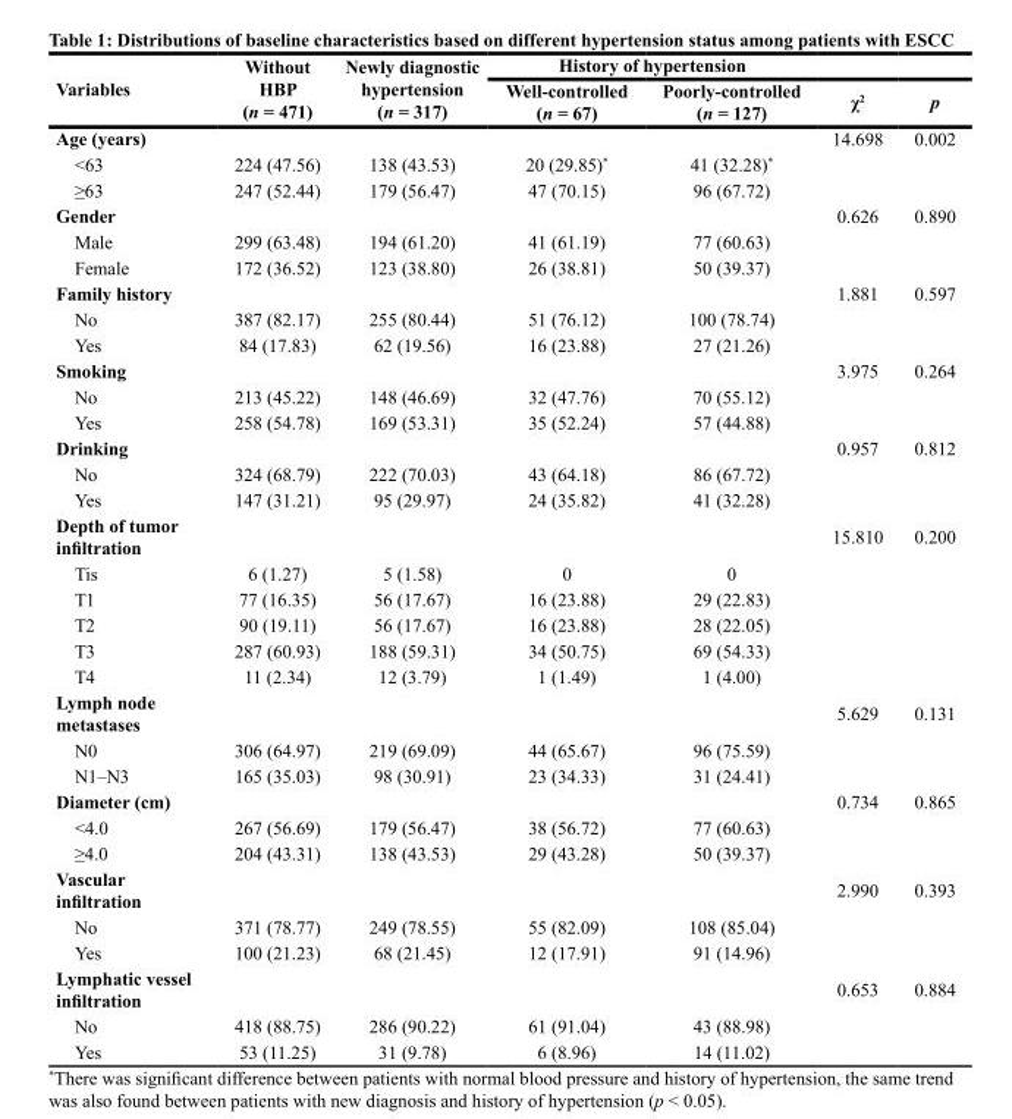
<table><thead><tr><td rowspan="2">Variables</td><td rowspan="2">Without HBP (n = 471)</td><td rowspan="2">Newly diagnostic hypertension (n = 317)</td><td colspan="2">History of hypertension</td><td rowspan="2">χ<sup>2</sup></td><td rowspan="2">p</td></tr><tr><td>Well-controlled (n = 67)</td><td>Poorly-controlled (n = 127)</td></tr></thead><tbody><tr><td>Age (years)</td><td></td><td></td><td></td><td></td><td>14.698</td><td>0.002</td></tr><tr><td>&lt;63</td><td>224 (47.56)</td><td>138 (43.53)</td><td>20 (29.85)*</td><td>41 (32.28)*</td><td></td><td></td></tr><tr><td>≥63</td><td>247 (52.44)</td><td>179 (56.47)</td><td>47 (70.15)</td><td>96 (67.72)</td><td></td><td></td></tr><tr><td>Gender</td><td></td><td></td><td></td><td></td><td>0.626</td><td>0.890</td></tr><tr><td>Male</td><td>299 (63.48)</td><td>194 (61.20)</td><td>41 (61.19)</td><td>77 (60.63)</td><td></td><td></td></tr><tr><td>Female</td><td>172 (36.52)</td><td>123 (38.80)</td><td>26 (38.81)</td><td>50 (39.37)</td><td></td><td></td></tr><tr><td>Family history</td><td></td><td></td><td></td><td></td><td>1.881</td><td>0.597</td></tr><tr><td>No</td><td>387 (82.17)</td><td>255 (80.44)</td><td>51 (76.12)</td><td>100 (78.74)</td><td></td><td></td></tr><tr><td>Yes</td><td>84 (17.83)</td><td>62 (19.56)</td><td>16 (23.88)</td><td>27 (21.26)</td><td></td><td></td></tr><tr><td>Smoking</td><td></td><td></td><td></td><td></td><td>3.975</td><td>0.264</td></tr><tr><td>No</td><td>213 (45.22)</td><td>148 (46.69)</td><td>32 (47.76)</td><td>70 (55.12)</td><td></td><td></td></tr><tr><td>Yes</td><td>258 (54.78)</td><td>169 (53.31)</td><td>35 (52.24)</td><td>57 (44.88)</td><td></td><td></td></tr><tr><td>Drinking</td><td></td><td></td><td></td><td></td><td>0.957</td><td>0.812</td></tr><tr><td>No</td><td>324 (68.79)</td><td>222 (70.03)</td><td>43 (64.18)</td><td>86 (67.72)</td><td></td><td></td></tr><tr><td>Yes</td><td>147 (31.21)</td><td>95 (29.97)</td><td>24 (35.82)</td><td>41 (32.28)</td><td></td><td></td></tr><tr><td>Depth of tumor infiltration</td><td></td><td></td><td></td><td></td><td>15.810</td><td>0.200</td></tr><tr><td>Tis</td><td>6 (1.27)</td><td>5 (1.58)</td><td>0</td><td>0</td><td></td><td></td></tr><tr><td>T1</td><td>77 (16.35)</td><td>56 (17.67)</td><td>16 (23.88)</td><td>29 (22.83)</td><td></td><td></td></tr><tr><td>T2</td><td>90 (19.11)</td><td>56 (17.67)</td><td>16 (23.88)</td><td>28 (22.05)</td><td></td><td></td></tr><tr><td>T3</td><td>287 (60.93)</td><td>188 (59.31)</td><td>34 (50.75)</td><td>69 (54.33)</td><td></td><td></td></tr><tr><td>T4</td><td>11 (2.34)</td><td>12 (3.79)</td><td>1 (1.49)</td><td>1 (4.00)</td><td></td><td></td></tr><tr><td>Lymph node metastases</td><td></td><td></td><td></td><td></td><td>5.629</td><td>0.131</td></tr><tr><td>N0</td><td>306 (64.97)</td><td>219 (69.09)</td><td>44 (65.67)</td><td>96 (75.59)</td><td></td><td></td></tr><tr><td>N1–N3</td><td>165 (35.03)</td><td>98 (30.91)</td><td>23 (34.33)</td><td>31 (24.41)</td><td></td><td></td></tr><tr><td>Diameter (cm)</td><td></td><td></td><td></td><td></td><td>0.734</td><td>0.865</td></tr><tr><td>&lt;4.0</td><td>267 (56.69)</td><td>179 (56.47)</td><td>38 (56.72)</td><td>77 (60.63)</td><td></td><td></td></tr><tr><td>≥4.0</td><td>204 (43.31)</td><td>138 (43.53)</td><td>29 (43.28)</td><td>50 (39.37)</td><td></td><td></td></tr><tr><td>Vascular infiltration</td><td></td><td></td><td></td><td></td><td>2.990</td><td>0.393</td></tr><tr><td>No</td><td>371 (78.77)</td><td>249 (78.55)</td><td>55 (82.09)</td><td>108 (85.04)</td><td></td><td></td></tr><tr><td>Yes</td><td>100 (21.23)</td><td>68 (21.45)</td><td>12 (17.91)</td><td>91 (14.96)</td><td></td><td></td></tr><tr><td>Lymphatic vessel infiltration</td><td></td><td></td><td></td><td></td><td>0.653</td><td>0.884</td></tr><tr><td>No</td><td>418 (88.75)</td><td>286 (90.22)</td><td>61 (91.04)</td><td>43 (88.98)</td><td></td><td></td></tr><tr><td>Yes</td><td>53 (11.25)</td><td>31 (9.78)</td><td>6 (8.96)</td><td>14 (11.02)</td><td></td><td></td></tr></tbody></table>